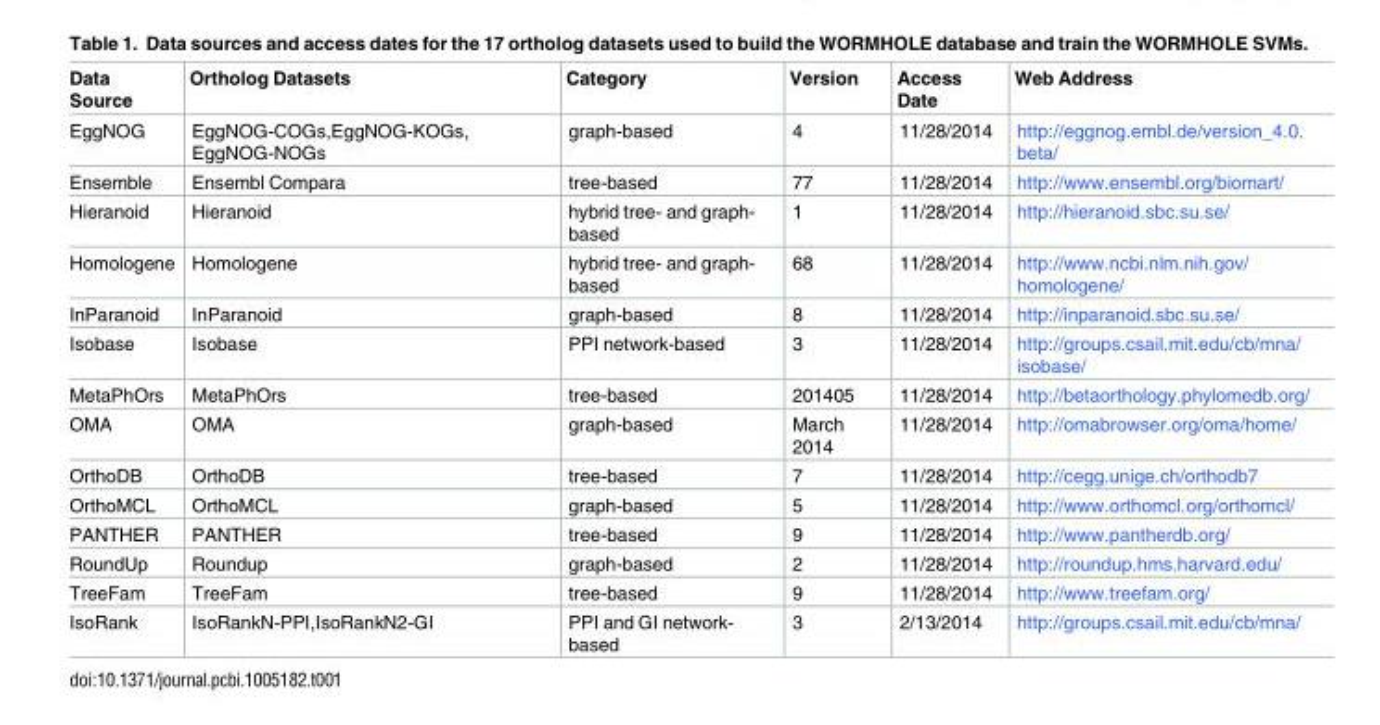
<table><thead><tr><td>Data Source</td><td>Ortholog Datasets</td><td>Category</td><td>Version</td><td>Access Date</td><td>Web Address</td></tr></thead><tbody><tr><td>EggNOG</td><td>EggNOG-COGs,EggNOG-KOGs, EggNOG-NOGs</td><td>graph-based</td><td>4</td><td>11/28/2014</td><td>http://eggnog.embl.de/version_4.0. beta/</td></tr><tr><td>Ensemble</td><td>Ensembl Compara</td><td>tree-based</td><td>77</td><td>11/28/2014</td><td>http://www.ensembl.org/biomart/</td></tr><tr><td>Hieranoid</td><td>Hieranoid</td><td>hybrid tree- and graph- based</td><td>1</td><td>11/28/2014</td><td>http://hieranoid.sbc.su.se/</td></tr><tr><td>Homologene</td><td>Homologene</td><td>hybrid tree- and graph- based</td><td>68</td><td>11/28/2014</td><td>http://www.ncbi.nlm.nih.gov/ homologene/</td></tr><tr><td>InParanoid</td><td>InParanoid</td><td>graph-based</td><td>8</td><td>11/28/2014</td><td>http://inparanoid.sbc.su.se/</td></tr><tr><td>Isobase</td><td>Isobase</td><td>PPI network-based</td><td>3</td><td>11/28/2014</td><td>http://groups.csail.mit.edu/cb/mna/ isobase/</td></tr><tr><td>MetaPhOrs</td><td>MetaPhOrs</td><td>tree-based</td><td>201405</td><td>11/28/2014</td><td>http://betaorthology.phylomedb.org/</td></tr><tr><td>OMA</td><td>OMA</td><td>graph-based</td><td>March 2014</td><td>11/28/2014</td><td>http://omabrowser.org/oma/home/</td></tr><tr><td>OrthoDB</td><td>OrthoDB</td><td>tree-based</td><td>7</td><td>11/28/2014</td><td>http://cegg.unige.ch/orthodb7</td></tr><tr><td>OrthoMCL</td><td>OrthoMCL</td><td>graph-based</td><td>5</td><td>11/28/2014</td><td>http://www.orthomcl.org/orthomcl/</td></tr><tr><td>PANTHER</td><td>PANTHER</td><td>tree-based</td><td>9</td><td>11/28/2014</td><td>http://www.pantherdb.org/</td></tr><tr><td>RoundUp</td><td>Roundup</td><td>graph-based</td><td>2</td><td>11/28/2014</td><td>http://roundup.hms.harvard.edu/</td></tr><tr><td>TreeFam</td><td>TreeFam</td><td>tree-based</td><td>9</td><td>11/28/2014</td><td>http://www.treefam.org/</td></tr><tr><td>IsoRank</td><td>IsoRankN-PPI,IsoRankN2-GI</td><td>PPI and GI network- based</td><td>3</td><td>2/13/2014</td><td>http://groups.csail.mit.edu/cb/mna/</td></tr></tbody></table>